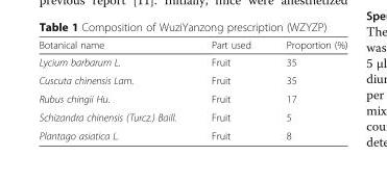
<table><thead><tr><td>Botanical name</td><td>Part used</td><td>Proportion (%)</td></tr></thead><tbody><tr><td>Lycium barbarum L.</td><td>Fruit</td><td>35</td></tr><tr><td>Cuscuta chinensis Lam.</td><td>Fruit</td><td>35</td></tr><tr><td>Rubus chingii Hu.</td><td>Fruit</td><td>17</td></tr><tr><td>Schizandra chinensis (Turcz.) Baill.</td><td>Fruit</td><td>5</td></tr><tr><td>Plantago asiatica L.</td><td>Fruit</td><td>8</td></tr></tbody></table>